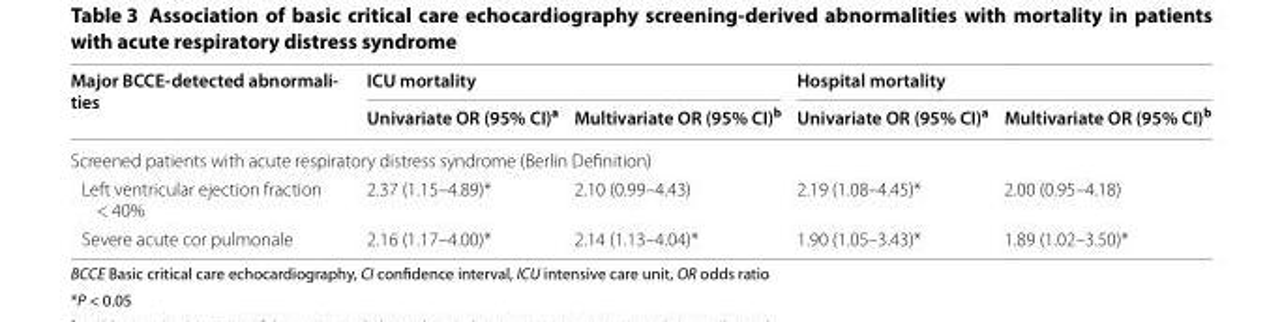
<table><thead><tr><td rowspan="2">Major BCCE-detected abnormali- ties</td><td colspan="2">ICU mortality</td><td colspan="2">Hospital mortality</td></tr><tr><td>Univariate OR (95% CI)<sup>a</sup></td><td>Multivariate OR (95% CI)<sup>b</sup></td><td>Univariate OR (95% CI)<sup>a</sup></td><td>Multivariate OR (95% CI)<sup>b</sup></td></tr></thead><tbody><tr><td colspan="5">Screened patients with acute respiratory distress syndrome (Berlin Definition)</td></tr><tr><td>Left ventricular ejection fraction &lt; 40%</td><td>2.37 (1.15–4.89)*</td><td>2.10 (0.99–4.43)</td><td>2.19 (1.08–4.45)*</td><td>2.00 (0.95–4.18)</td></tr><tr><td>Severe acute cor pulmonale</td><td>2.16 (1.17–4.00)*</td><td>2.14 (1.13–4.04)*</td><td>1.90 (1.05–3.43)*</td><td>1.89 (1.02–3.50)*</td></tr></tbody></table>